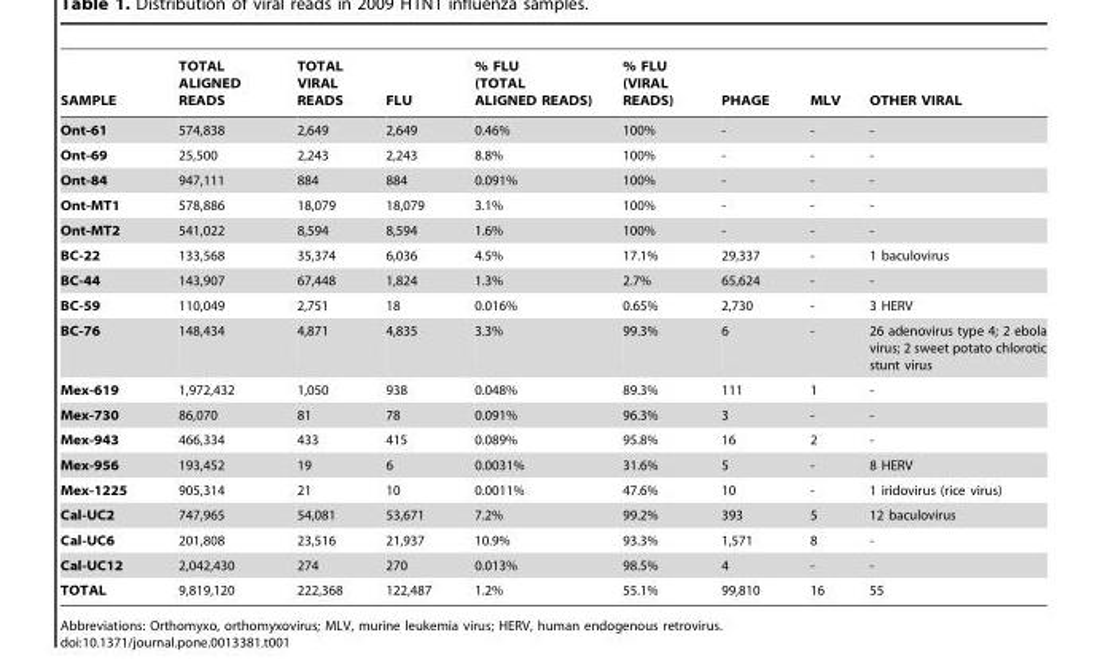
<table><thead><tr><td>SAMPLE</td><td>TOTAL ALIGNED READS</td><td>TOTAL VIRAL READS</td><td>FLU</td><td>% FLU (TOTAL ALIGNED READS)</td><td>% FLU (VIRAL READS)</td><td>PHAGE</td><td>MLV</td><td>OTHER VIRAL</td></tr></thead><tbody><tr><td>Ont-61</td><td>574,838</td><td>2,649</td><td>2,649</td><td>0.46%</td><td>100%</td><td>-</td><td>-</td><td>-</td></tr><tr><td>Ont-69</td><td>25,500</td><td>2,243</td><td>2,243</td><td>8.8%</td><td>100%</td><td>-</td><td>-</td><td>-</td></tr><tr><td>Ont-84</td><td>947,111</td><td>884</td><td>884</td><td>0.091%</td><td>100%</td><td>-</td><td>-</td><td>-</td></tr><tr><td>Ont-MT1</td><td>578,886</td><td>18,079</td><td>18,079</td><td>3.1%</td><td>100%</td><td>-</td><td>-</td><td>-</td></tr><tr><td>Ont-MT2</td><td>541,022</td><td>8,594</td><td>8,594</td><td>1.6%</td><td>100%</td><td>-</td><td>-</td><td>-</td></tr><tr><td>BC-22</td><td>133,568</td><td>35,374</td><td>6,036</td><td>4.5%</td><td>17.1%</td><td>29,337</td><td>-</td><td>1 baculovirus</td></tr><tr><td>BC-44</td><td>143,907</td><td>67,448</td><td>1,824</td><td>1.3%</td><td>2.7%</td><td>65,624</td><td>-</td><td>-</td></tr><tr><td>BC-59</td><td>110,049</td><td>2,751</td><td>18</td><td>0.016%</td><td>0.65%</td><td>2,730</td><td>-</td><td>3 HERV</td></tr><tr><td>BC-76</td><td>148,434</td><td>4,871</td><td>4,835</td><td>3.3%</td><td>99.3%</td><td>6</td><td>-</td><td>26 adenovirus type 4; 2 ebola virus; 2 sweet potato chlorotic stunt virus</td></tr><tr><td>Mex-619</td><td>1,972,432</td><td>1,050</td><td>938</td><td>0.048%</td><td>89.3%</td><td>111</td><td>1</td><td>-</td></tr><tr><td>Mex-730</td><td>86,070</td><td>81</td><td>78</td><td>0.091%</td><td>96.3%</td><td>3</td><td>-</td><td>-</td></tr><tr><td>Mex-943</td><td>466,334</td><td>433</td><td>415</td><td>0.089%</td><td>95.8%</td><td>16</td><td>2</td><td>-</td></tr><tr><td>Mex-956</td><td>193,452</td><td>19</td><td>6</td><td>0.0031%</td><td>31.6%</td><td>5</td><td>-</td><td>8 HERV</td></tr><tr><td>Mex-1225</td><td>905,314</td><td>21</td><td>10</td><td>0.0011%</td><td>47.6%</td><td>10</td><td>-</td><td>1 iridovirus (rice virus)</td></tr><tr><td>Cal-UC2</td><td>747,965</td><td>54,081</td><td>53,671</td><td>7.2%</td><td>99.2%</td><td>393</td><td>5</td><td>12 baculovirus</td></tr><tr><td>Cal-UC6</td><td>201,808</td><td>23,516</td><td>21,937</td><td>10.9%</td><td>93.3%</td><td>1,571</td><td>8</td><td>-</td></tr><tr><td>Cal-UC12</td><td>2,042,430</td><td>274</td><td>270</td><td>0.013%</td><td>98.5%</td><td>4</td><td>-</td><td>-</td></tr><tr><td>TOTAL</td><td>9,819,120</td><td>222,368</td><td>122,487</td><td>1.2%</td><td>55.1%</td><td>99,810</td><td>16</td><td>55</td></tr></tbody></table>